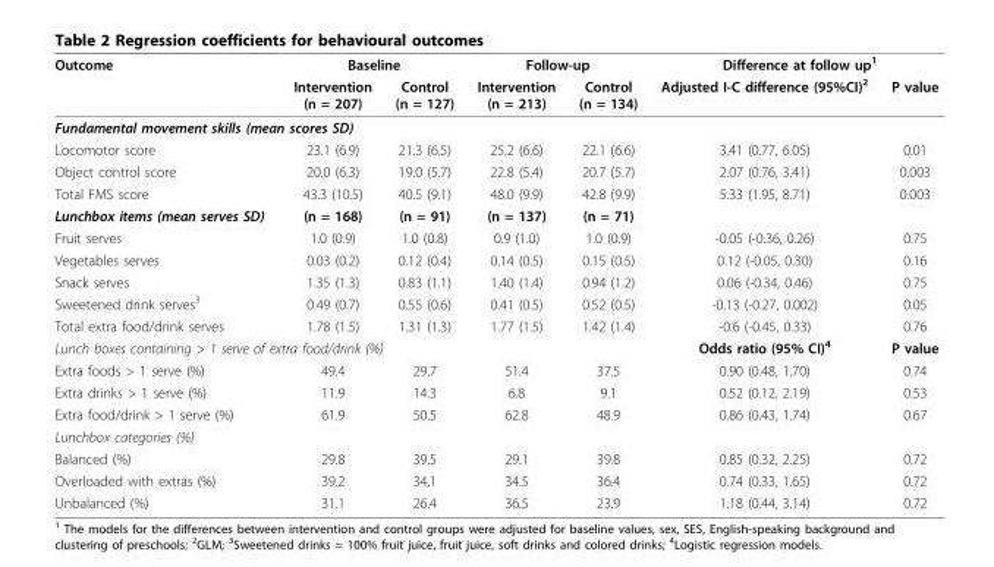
<table><thead><tr><td rowspan="2">Outcome</td><td colspan="2">Baseline</td><td colspan="2">Follow-up</td><td colspan="2">Difference at follow up<sup>1</sup></td></tr><tr><td>Intervention (n = 207)</td><td>Control (n = 127)</td><td>Intervention (n = 213)</td><td>Control (n = 134)</td><td>Adjusted I-C difference (95%CI)<sup>2</sup></td><td>P value</td></tr></thead><tbody><tr><td colspan="7">Fundamental movement skills (mean scores SD)</td></tr><tr><td>Locomotor score</td><td>23.1 (6.9)</td><td>21.3 (6.5)</td><td>25.2 (6.6)</td><td>22.1 (6.6)</td><td>3.41 (0.77, 6.05)</td><td>0.01</td></tr><tr><td>Object control score</td><td>20.0 (6.3)</td><td>19.0 (5.7)</td><td>22.8 (5.4)</td><td>20.7 (5.7)</td><td>2.07 (0.76, 3.41)</td><td>0.003</td></tr><tr><td>Total FMS score</td><td>43.3 (10.5)</td><td>40.5 (9.1)</td><td>48.0 (9.9)</td><td>42.8 (9.9)</td><td>5.33 (1.95, 8.71)</td><td>0.003</td></tr><tr><td>Lunchbox items (mean serves SD)</td><td>(n = 168)</td><td>(n = 91)</td><td>(n = 137)</td><td>(n = 71)</td><td></td><td></td></tr><tr><td>Fruit serves</td><td>1.0 (0.9)</td><td>1.0 (0.8)</td><td>0.9 (1.0)</td><td>1.0 (0.9)</td><td>-0.05 (-0.36, 0.26)</td><td>0.75</td></tr><tr><td>Vegetables serves</td><td>0.03 (0.2)</td><td>0.12 (0.4)</td><td>0.14 (0.5)</td><td>0.15 (0.5)</td><td>0.12 (-0.05, 0.30)</td><td>0.16</td></tr><tr><td>Snack serves</td><td>1.35 (1.3)</td><td>0.83 (1.1)</td><td>1.40 (1.4)</td><td>0.94 (1.2)</td><td>0.06 (-0.34, 0.46)</td><td>0.75</td></tr><tr><td>Sweetened drink serves<sup>3</sup></td><td>0.49 (0.7)</td><td>0.55 (0.6)</td><td>0.41 (0.5)</td><td>0.52 (0.5)</td><td>-0.13 (-0.27, 0.002)</td><td>0.05</td></tr><tr><td>Total extra food/drink serves</td><td>1.78 (1.5)</td><td>1.31 (1.3)</td><td>1.77 (1.5)</td><td>1.42 (1.4)</td><td>-0.6 (-0.45, 0.33)</td><td>0.76</td></tr><tr><td colspan="3">Lunch boxes containing &gt; 1 serve of extra food/drink (%)</td><td></td><td></td><td>Odds ratio (95% CI)<sup>4</sup></td><td>P value</td></tr><tr><td>Extra foods &gt; 1 serve (%)</td><td>49.4</td><td>29.7</td><td>51.4</td><td>37.5</td><td>0.90 (0.48, 1.70)</td><td>0.74</td></tr><tr><td>Extra drinks &gt; 1 serve (%)</td><td>11.9</td><td>14.3</td><td>6.8</td><td>9.1</td><td>0.52 (0.12, 2.19)</td><td>0.53</td></tr><tr><td>Extra food/drink &gt; 1 serve (%)</td><td>61.9</td><td>50.5</td><td>62.8</td><td>48.9</td><td>0.86 (0.43, 1.74)</td><td>0.67</td></tr><tr><td colspan="7">Lunchbox categories (%)</td></tr><tr><td>Balanced (%)</td><td>29.8</td><td>39.5</td><td>29.1</td><td>39.8</td><td>0.85 (0.32, 2.25)</td><td>0.72</td></tr><tr><td>Overloaded with extras (%)</td><td>39.2</td><td>34.1</td><td>34.5</td><td>36.4</td><td>0.74 (0.33, 1.65)</td><td>0.72</td></tr><tr><td>Unbalanced (%)</td><td>31.1</td><td>26.4</td><td>36.5</td><td>23.9</td><td>1.18 (0.44, 3.14)</td><td>0.72</td></tr></tbody></table>